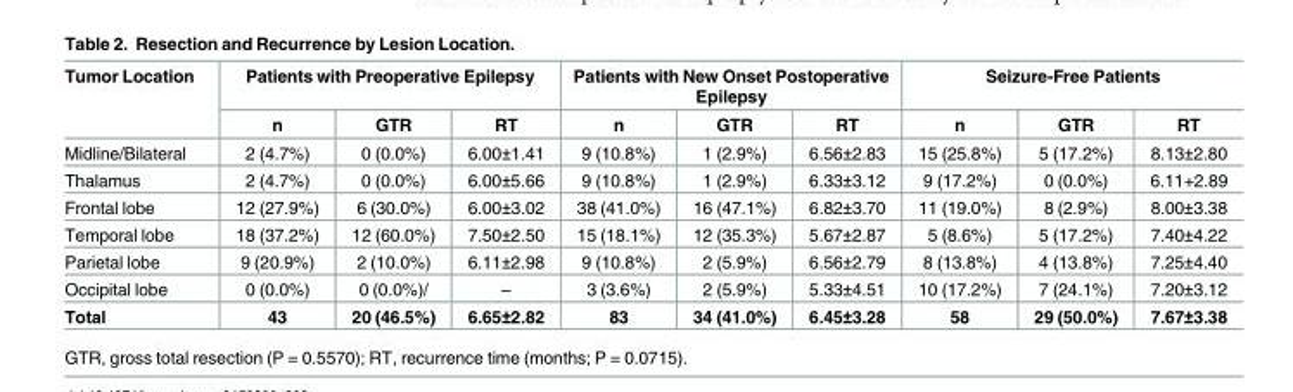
<table><thead><tr><td rowspan="2">Tumor Location</td><td colspan="3">Patients with Preoperative Epilepsy</td><td colspan="3">Patients with New Onset Postoperative Epilepsy</td><td colspan="3">Seizure-Free Patients</td></tr><tr><td>n</td><td>GTR</td><td>RT</td><td>n</td><td>GTR</td><td>RT</td><td>n</td><td>GTR</td><td>RT</td></tr></thead><tbody><tr><td>Midline/Bilateral</td><td>2 (4.7%)</td><td>0 (0.0%)</td><td>6.00±1.41</td><td>9 (10.8%)</td><td>1 (2.9%)</td><td>6.56±2.83</td><td>15 (25.8%)</td><td>5 (17.2%)</td><td>8.13±2.80</td></tr><tr><td>Thalamus</td><td>2 (4.7%)</td><td>0 (0.0%)</td><td>6.00±5.66</td><td>9 (10.8%)</td><td>1 (2.9%)</td><td>6.33±3.12</td><td>9 (17.2%)</td><td>0 (0.0%)</td><td>6.11+2.89</td></tr><tr><td>Frontal lobe</td><td>12 (27.9%)</td><td>6 (30.0%)</td><td>6.00±3.02</td><td>38 (41.0%)</td><td>16 (47.1%)</td><td>6.82±3.70</td><td>11 (19.0%)</td><td>8 (2.9%)</td><td>8.00±3.38</td></tr><tr><td>Temporal lobe</td><td>18 (37.2%)</td><td>12 (60.0%)</td><td>7.50±2.50</td><td>15 (18.1%)</td><td>12 (35.3%)</td><td>5.67±2.87</td><td>5 (8.6%)</td><td>5 (17.2%)</td><td>7.40±4.22</td></tr><tr><td>Parietal lobe</td><td>9 (20.9%)</td><td>2 (10.0%)</td><td>6.11±2.98</td><td>9 (10.8%)</td><td>2 (5.9%)</td><td>6.56±2.79</td><td>8 (13.8%)</td><td>4 (13.8%)</td><td>7.25±4.40</td></tr><tr><td>Occipital lobe</td><td>0 (0.0%)</td><td>0 (0.0%)/</td><td>–</td><td>3 (3.6%)</td><td>2 (5.9%)</td><td>5.33±4.51</td><td>10 (17.2%)</td><td>7 (24.1%)</td><td>7.20±3.12</td></tr><tr><td>Total</td><td>43</td><td>20 (46.5%)</td><td>6.65±2.82</td><td>83</td><td>34 (41.0%)</td><td>6.45±3.28</td><td>58</td><td>29 (50.0%)</td><td>7.67±3.38</td></tr></tbody></table>